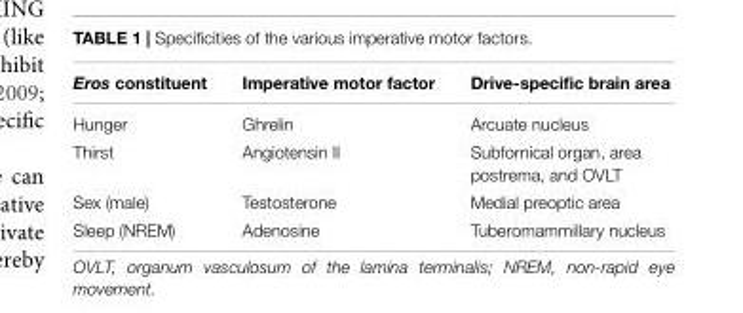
<table><thead><tr><td>Eros constituent</td><td>Imperative motor factor</td><td>Drive-specific brain area</td></tr></thead><tbody><tr><td>Hunger</td><td>Ghrelin</td><td>Arcuate nucleus</td></tr><tr><td>Thirst</td><td>Angiotensin II</td><td>Subfornical organ, area postrema, and OVLT</td></tr><tr><td>Sex (male)</td><td>Testosterone</td><td>Medial preoptic area</td></tr><tr><td>Sleep (NREM)</td><td>Adenosine</td><td>Tuberomammillary nucleus</td></tr></tbody></table>